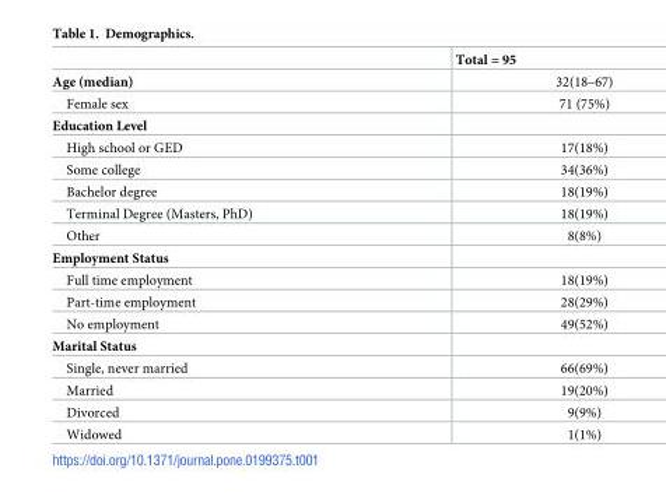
<table><thead><tr><td></td><td>Total = 95</td></tr></thead><tbody><tr><td>Age (median)</td><td>32(18–67)</td></tr><tr><td>Female sex</td><td>71 (75%)</td></tr><tr><td colspan="2">Education Level</td></tr><tr><td>High school or GED</td><td>17(18%)</td></tr><tr><td>Some college</td><td>34(36%)</td></tr><tr><td>Bachelor degree</td><td>18(19%)</td></tr><tr><td>Terminal Degree (Masters, PhD)</td><td>18(19%)</td></tr><tr><td>Other</td><td>8(8%)</td></tr><tr><td colspan="2">Employment Status</td></tr><tr><td>Full time employment</td><td>18(19%)</td></tr><tr><td>Part-time employment</td><td>28(29%)</td></tr><tr><td>No employment</td><td>49(52%)</td></tr><tr><td colspan="2">Marital Status</td></tr><tr><td>Single, never married</td><td>66(69%)</td></tr><tr><td>Married</td><td>19(20%)</td></tr><tr><td>Divorced</td><td>9(9%)</td></tr><tr><td>Widowed</td><td>1(1%)</td></tr></tbody></table>